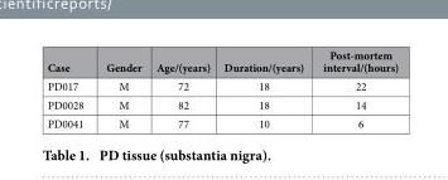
<table><thead><tr><td>Case</td><td>Gender</td><td>Age/(years)</td><td>Duration/(years)</td><td>Post-mortem interval/(hours)</td></tr></thead><tbody><tr><td>PD017</td><td>M</td><td>72</td><td>18</td><td>22</td></tr><tr><td>PD0028</td><td>M</td><td>82</td><td>18</td><td>14</td></tr><tr><td>PD0041</td><td>M</td><td>77</td><td>10</td><td>6</td></tr></tbody></table>